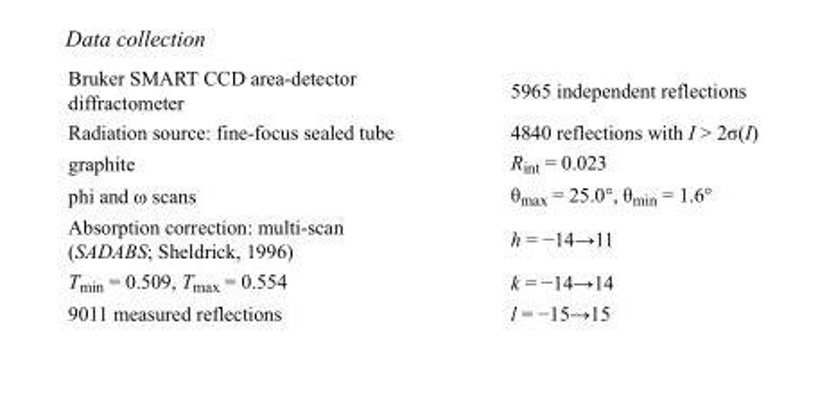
<table><tbody><tr><td>Bruker SMART CCD area-detector diffractometer</td><td>5965 independent reflections</td></tr><tr><td>Radiation source: fine-focus sealed tube</td><td>4840 reflections with I &gt; 2σ(I)</td></tr><tr><td>graphite</td><td>R<sub>int</sub> = 0.023</td></tr><tr><td>phi and ω scans</td><td>θ<sub>max</sub> = 25.0°, θ<sub>min</sub> = 1.6°</td></tr><tr><td>Absorption correction: multi-scan (SADABS; Sheldrick, 1996)</td><td>h = −14→11</td></tr><tr><td>T<sub>min</sub> = 0.509, T<sub>max</sub> = 0.554</td><td>k = −14→14</td></tr><tr><td>9011 measured reflections</td><td>l = −15→15</td></tr></tbody></table>